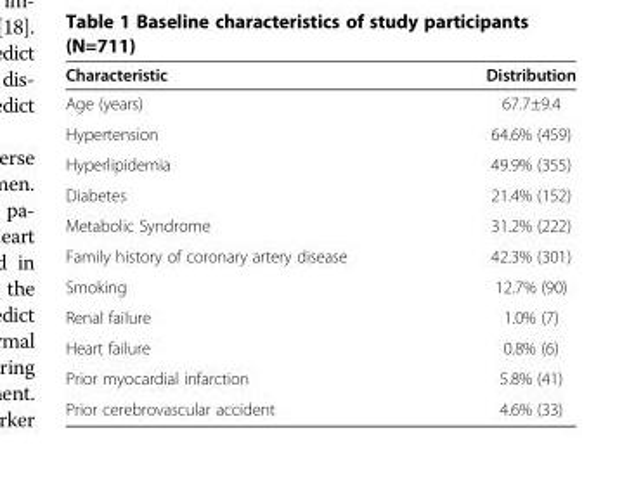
<table><thead><tr><td>Characteristic</td><td>Distribution</td></tr></thead><tbody><tr><td>Age (years)</td><td>67.7±9.4</td></tr><tr><td>Hypertension</td><td>64.6% (459)</td></tr><tr><td>Hyperlipidemia</td><td>49.9% (355)</td></tr><tr><td>Diabetes</td><td>21.4% (152)</td></tr><tr><td>Metabolic Syndrome</td><td>31.2% (222)</td></tr><tr><td>Family history of coronary artery disease</td><td>42.3% (301)</td></tr><tr><td>Smoking</td><td>12.7% (90)</td></tr><tr><td>Renal failure</td><td>1.0% (7)</td></tr><tr><td>Heart failure</td><td>0.8% (6)</td></tr><tr><td>Prior myocardial infarction</td><td>5.8% (41)</td></tr><tr><td>Prior cerebrovascular accident</td><td>4.6% (33)</td></tr></tbody></table>